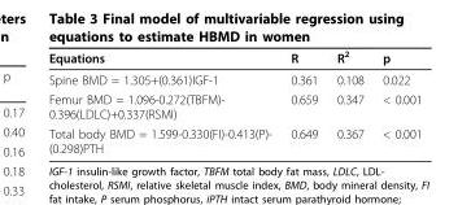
<table><thead><tr><td>Equations</td><td>R</td><td>R<sup>2</sup></td><td>p</td></tr></thead><tbody><tr><td>Spine BMD = 1.305+(0.361)IGF-1</td><td>0.361</td><td>0.108</td><td>0.022</td></tr><tr><td>Femur BMD = 1.096-0.272(TBFM)- 0.396(LDLC)+0.337(RSMI)</td><td>0.659</td><td>0.347</td><td>&lt; 0.001</td></tr><tr><td>Total body BMD = 1.599-0.330(FI)-0.413(P)- (0.298)PTH</td><td>0.649</td><td>0.367</td><td>&lt; 0.001</td></tr></tbody></table>